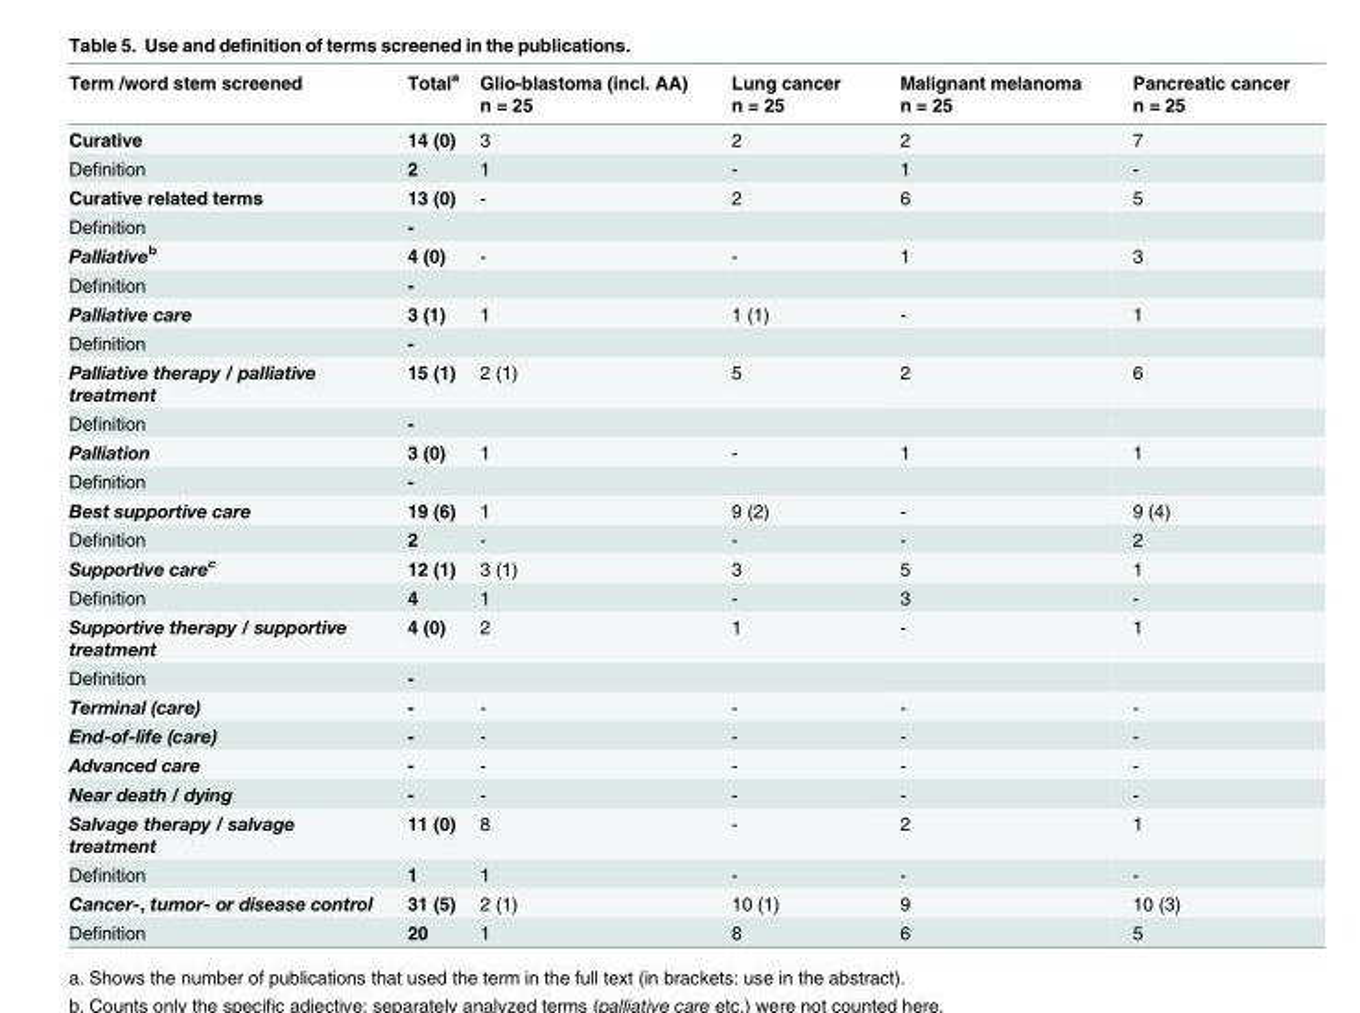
<table><thead><tr><td>Term /word stem screened</td><td>Total<sup>a</sup></td><td>Glio-blastoma (incl. AA) n = 25</td><td>Lung cancer n = 25</td><td>Malignant melanoma n = 25</td><td>Pancreatic cancer n = 25</td></tr></thead><tbody><tr><td>Curative</td><td>14 (0)</td><td>3</td><td>2</td><td>2</td><td>7</td></tr><tr><td>Definition</td><td>2</td><td>1</td><td>-</td><td>1</td><td>-</td></tr><tr><td>Curative related terms</td><td>13 (0)</td><td>-</td><td>2</td><td>6</td><td>5</td></tr><tr><td>Definition</td><td>-</td><td></td><td></td><td></td><td></td></tr><tr><td>Palliative<sup>b</sup></td><td>4 (0)</td><td>-</td><td>-</td><td>1</td><td>3</td></tr><tr><td>Definition</td><td>-</td><td></td><td></td><td></td><td></td></tr><tr><td>Palliative care</td><td>3 (1)</td><td>1</td><td>1 (1)</td><td>-</td><td>1</td></tr><tr><td>Definition</td><td>-</td><td></td><td></td><td></td><td></td></tr><tr><td>Palliative therapy / palliative treatment</td><td>15 (1)</td><td>2 (1)</td><td>5</td><td>2</td><td>6</td></tr><tr><td>Definition</td><td>-</td><td></td><td></td><td></td><td></td></tr><tr><td>Palliation</td><td>3 (0)</td><td>1</td><td>-</td><td>1</td><td>1</td></tr><tr><td>Definition</td><td>-</td><td></td><td></td><td></td><td></td></tr><tr><td>Best supportive care</td><td>19 (6)</td><td>1</td><td>9 (2)</td><td>-</td><td>9 (4)</td></tr><tr><td>Definition</td><td>2</td><td>-</td><td>-</td><td>-</td><td>2</td></tr><tr><td>Supportive care<sup>c</sup></td><td>12 (1)</td><td>3 (1)</td><td>3</td><td>5</td><td>1</td></tr><tr><td>Definition</td><td>4</td><td>1</td><td>-</td><td>3</td><td>-</td></tr><tr><td>Supportive therapy / supportive treatment</td><td>4 (0)</td><td>2</td><td>1</td><td>-</td><td>1</td></tr><tr><td>Definition</td><td>-</td><td></td><td></td><td></td><td></td></tr><tr><td>Terminal (care)</td><td>-</td><td>-</td><td>-</td><td>-</td><td>-</td></tr><tr><td>End-of-life (care)</td><td>-</td><td>-</td><td>-</td><td>-</td><td>-</td></tr><tr><td>Advanced care</td><td>-</td><td>-</td><td>-</td><td>-</td><td>-</td></tr><tr><td>Near death / dying</td><td>-</td><td>-</td><td>-</td><td>-</td><td>-</td></tr><tr><td>Salvage therapy / salvage treatment</td><td>11 (0)</td><td>8</td><td>-</td><td>2</td><td>1</td></tr><tr><td>Definition</td><td>1</td><td>1</td><td>-</td><td>-</td><td>-</td></tr><tr><td>Cancer-, tumor- or disease control</td><td>31 (5)</td><td>2 (1)</td><td>10 (1)</td><td>9</td><td>10 (3)</td></tr><tr><td>Definition</td><td>20</td><td>1</td><td>8</td><td>6</td><td>5</td></tr></tbody></table>